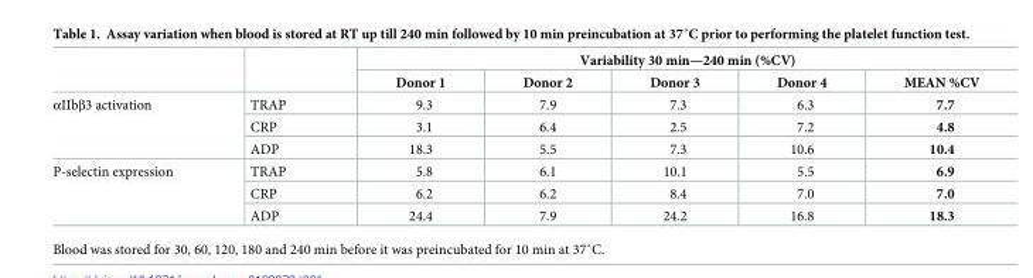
<table><thead><tr><td rowspan="2"></td><td rowspan="2"></td><td colspan="5">Variability 30 min—240 min (%CV)</td></tr><tr><td>Donor 1</td><td>Donor 2</td><td>Donor 3</td><td>Donor 4</td><td>MEAN %CV</td></tr></thead><tbody><tr><td rowspan="3">αIIbβ3 activation</td><td>TRAP</td><td>9.3</td><td>7.9</td><td>7.3</td><td>6.3</td><td>7.7</td></tr><tr><td>CRP</td><td>3.1</td><td>6.4</td><td>2.5</td><td>7.2</td><td>4.8</td></tr><tr><td>ADP</td><td>18.3</td><td>5.5</td><td>7.3</td><td>10.6</td><td>10.4</td></tr><tr><td rowspan="3">P-selectin expression</td><td>TRAP</td><td>5.8</td><td>6.1</td><td>10.1</td><td>5.5</td><td>6.9</td></tr><tr><td>CRP</td><td>6.2</td><td>6.2</td><td>8.4</td><td>7.0</td><td>7.0</td></tr><tr><td>ADP</td><td>24.4</td><td>7.9</td><td>24.2</td><td>16.8</td><td>18.3</td></tr></tbody></table>